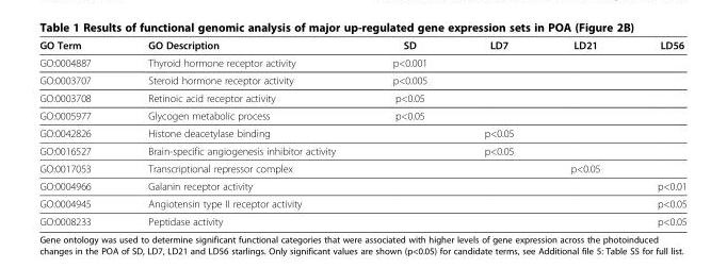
<table><thead><tr><td>GO Term</td><td>GO Description</td><td>SD</td><td>LD7</td><td>LD21</td><td>LD56</td></tr></thead><tbody><tr><td>GO:0004887</td><td>Thyroid hormone receptor activity</td><td>p&lt;0.001</td><td></td><td></td><td></td></tr><tr><td>GO:0003707</td><td>Steroid hormone receptor activity</td><td>p&lt;0.005</td><td></td><td></td><td></td></tr><tr><td>GO:0003708</td><td>Retinoic acid receptor activity</td><td>p&lt;0.05</td><td></td><td></td><td></td></tr><tr><td>GO:0005977</td><td>Glycogen metabolic process</td><td>p&lt;0.05</td><td></td><td></td><td></td></tr><tr><td>GO:0042826</td><td>Histone deacetylase binding</td><td></td><td>p&lt;0.05</td><td></td><td></td></tr><tr><td>GO:0016527</td><td>Brain-specific angiogenesis inhibitor activity</td><td></td><td>p&lt;0.05</td><td></td><td></td></tr><tr><td>GO:0017053</td><td>Transcriptional repressor complex</td><td></td><td></td><td>p&lt;0.05</td><td></td></tr><tr><td>GO:0004966</td><td>Galanin receptor activity</td><td></td><td></td><td></td><td>p&lt;0.01</td></tr><tr><td>GO:0004945</td><td>Angiotensin type II receptor activity</td><td></td><td></td><td></td><td>p&lt;0.05</td></tr><tr><td>GO:0008233</td><td>Peptidase activity</td><td></td><td></td><td></td><td>p&lt;0.05</td></tr></tbody></table>